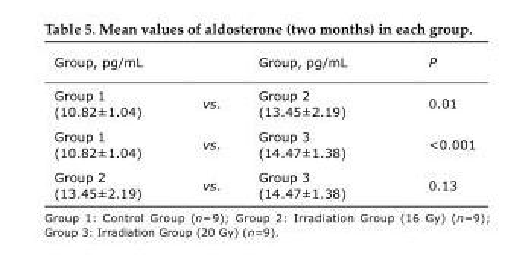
<table><thead><tr><td>Group, pg/mL</td><td></td><td>Group, pg/mL</td><td>P</td></tr></thead><tbody><tr><td>Group 1 (10.82±1.04)</td><td>vs.</td><td>Group 2 (13.45±2.19)</td><td>0.01</td></tr><tr><td>Group 1 (10.82±1.04)</td><td>vs.</td><td>Group 3 (14.47±1.38)</td><td>&lt;0.001</td></tr><tr><td>Group 2 (13.45±2.19)</td><td>vs.</td><td>Group 3 (14.47±1.38)</td><td>0.13</td></tr></tbody></table>